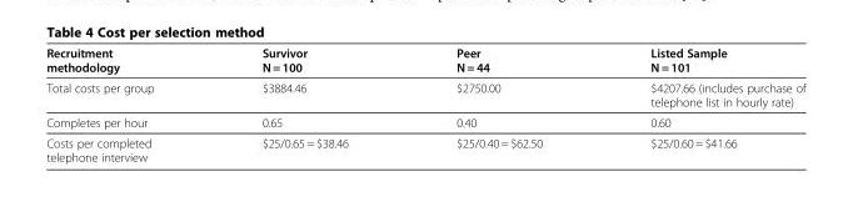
<table><thead><tr><td>Recruitment methodology</td><td>Survivor N = 100</td><td>Peer N = 44</td><td>Listed Sample N = 101</td></tr></thead><tbody><tr><td>Total costs per group</td><td>$3884.46</td><td>$2750.00</td><td>$4207.66 (includes purchase of telephone list in hourly rate)</td></tr><tr><td>Completes per hour</td><td>0.65</td><td>0.40</td><td>0.60</td></tr><tr><td>Costs per completed telephone interview</td><td>$25/0.65 = $38.46</td><td>$25/0.40 = $62.50</td><td>$25/0.60 = $41.66</td></tr></tbody></table>